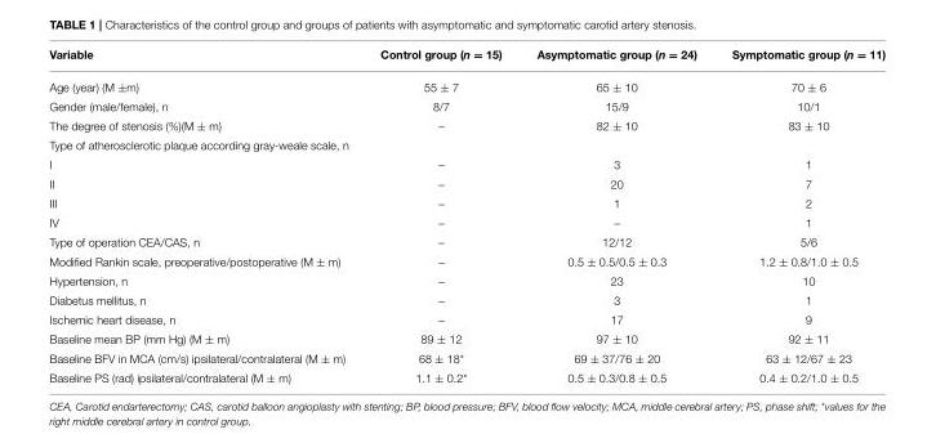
<table><thead><tr><td>Variable</td><td>Control group (n = 15)</td><td>Asymptomatic group (n = 24)</td><td>Symptomatic group (n = 11)</td></tr></thead><tbody><tr><td>Age (year) (M ±m)</td><td>55 ± 7</td><td>65 ± 10</td><td>70 ± 6</td></tr><tr><td>Gender (male/female), n</td><td>8/7</td><td>15/9</td><td>10/1</td></tr><tr><td>The degree of stenosis (%)(M ± m)</td><td>–</td><td>82 ± 10</td><td>83 ± 10</td></tr><tr><td colspan="4">Type of atherosclerotic plaque according gray-weale scale, n</td></tr><tr><td>I</td><td>–</td><td>3</td><td>1</td></tr><tr><td>II</td><td>–</td><td>20</td><td>7</td></tr><tr><td>III</td><td>–</td><td>1</td><td>2</td></tr><tr><td>IV</td><td>–</td><td>–</td><td>1</td></tr><tr><td>Type of operation CEA/CAS, n</td><td>–</td><td>12/12</td><td>5/6</td></tr><tr><td>Modified Rankin scale, preoperative/postoperative (M ± m)</td><td>–</td><td>0.5 ± 0.5/0.5 ± 0.3</td><td>1.2 ± 0.8/1.0 ± 0.5</td></tr><tr><td>Hypertension, n</td><td>–</td><td>23</td><td>10</td></tr><tr><td>Diabetus mellitus, n</td><td>–</td><td>3</td><td>1</td></tr><tr><td>Ischemic heart disease, n</td><td>–</td><td>17</td><td>9</td></tr><tr><td>Baseline mean BP (mm Hg) (M ± m)</td><td>89 ± 12</td><td>97 ± 10</td><td>92 ± 11</td></tr><tr><td>Baseline BFV in MCA (cm/s) ipsilateral/contralateral (M ± m)</td><td>68 ± 18*</td><td>69 ± 37/76 ± 20</td><td>63 ± 12/67 ± 23</td></tr><tr><td>Baseline PS (rad) ipsilateral/contralateral (M ± m)</td><td>1.1 ± 0.2*</td><td>0.5 ± 0.3/0.8 ± 0.5</td><td>0.4 ± 0.2/1.0 ± 0.5</td></tr></tbody></table>